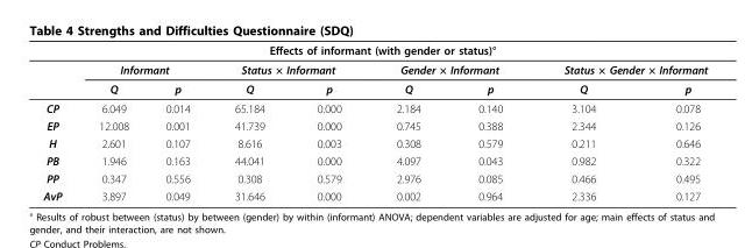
<table><thead><tr><td colspan="9">Effects of informant (with gender or status)°</td></tr><tr><td rowspan="2"></td><td colspan="2">Informant</td><td colspan="2">Status × Informant</td><td colspan="2">Gender × Informant</td><td colspan="2">Status × Gender × Informant</td></tr><tr><td>Q</td><td>p</td><td>Q</td><td>p</td><td>Q</td><td>p</td><td>Q</td><td>p</td></tr></thead><tbody><tr><td>CP</td><td>6.049</td><td>0.014</td><td>65.184</td><td>0.000</td><td>2.184</td><td>0.140</td><td>3.104</td><td>0.078</td></tr><tr><td>EP</td><td>12.008</td><td>0.001</td><td>41.739</td><td>0.000</td><td>0.745</td><td>0.388</td><td>2.344</td><td>0.126</td></tr><tr><td>H</td><td>2.601</td><td>0.107</td><td>8.616</td><td>0.003</td><td>0.308</td><td>0.579</td><td>0.211</td><td>0.646</td></tr><tr><td>PB</td><td>1.946</td><td>0.163</td><td>44.041</td><td>0.000</td><td>4.097</td><td>0.043</td><td>0.982</td><td>0.322</td></tr><tr><td>PP</td><td>0.347</td><td>0.556</td><td>0.308</td><td>0.579</td><td>2.976</td><td>0.085</td><td>0.466</td><td>0.495</td></tr><tr><td>AvP</td><td>3.897</td><td>0.049</td><td>31.646</td><td>0.000</td><td>0.002</td><td>0.964</td><td>2.336</td><td>0.127</td></tr></tbody></table>